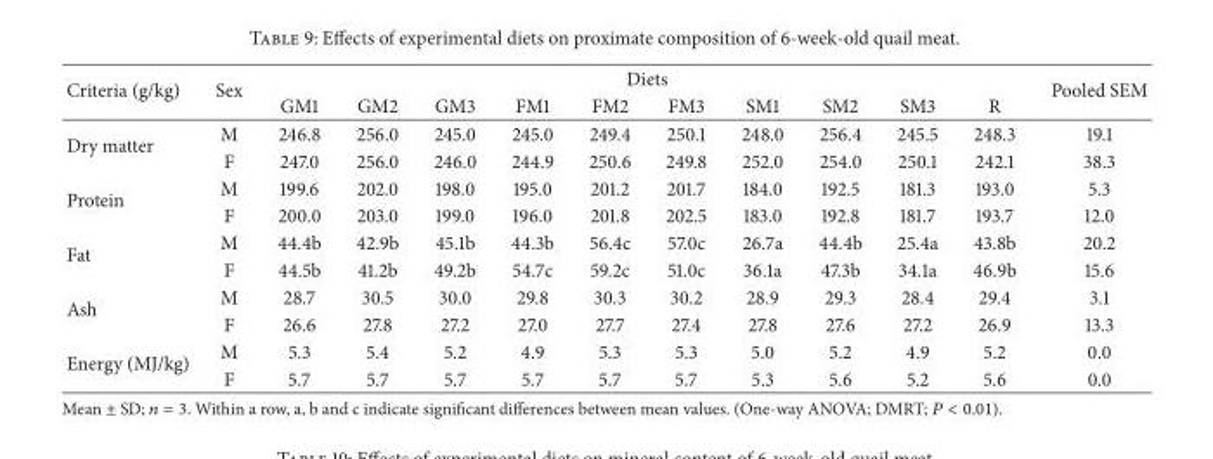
<table><thead><tr><td rowspan="2">Criteria (g/kg)</td><td rowspan="2">Sex</td><td colspan="10">Diets</td><td rowspan="2">Pooled SEM</td></tr><tr><td>GM1</td><td>GM2</td><td>GM3</td><td>FM1</td><td>FM2</td><td>FM3</td><td>SM1</td><td>SM2</td><td>SM3</td><td>R</td></tr></thead><tbody><tr><td rowspan="2">Dry matter</td><td>M</td><td>246.8</td><td>256.0</td><td>245.0</td><td>245.0</td><td>249.4</td><td>250.1</td><td>248.0</td><td>256.4</td><td>245.5</td><td>248.3</td><td>19.1</td></tr><tr><td>F</td><td>247.0</td><td>256.0</td><td>246.0</td><td>244.9</td><td>250.6</td><td>249.8</td><td>252.0</td><td>254.0</td><td>250.1</td><td>242.1</td><td>38.3</td></tr><tr><td rowspan="2">Protein</td><td>M</td><td>199.6</td><td>202.0</td><td>198.0</td><td>195.0</td><td>201.2</td><td>201.7</td><td>184.0</td><td>192.5</td><td>181.3</td><td>193.0</td><td>5.3</td></tr><tr><td>F</td><td>200.0</td><td>203.0</td><td>199.0</td><td>196.0</td><td>201.8</td><td>202.5</td><td>183.0</td><td>192.8</td><td>181.7</td><td>193.7</td><td>12.0</td></tr><tr><td rowspan="2">Fat</td><td>M</td><td>44.4b</td><td>42.9b</td><td>45.1b</td><td>44.3b</td><td>56.4c</td><td>57.0c</td><td>26.7a</td><td>44.4b</td><td>25.4a</td><td>43.8b</td><td>20.2</td></tr><tr><td>F</td><td>44.5b</td><td>41.2b</td><td>49.2b</td><td>54.7c</td><td>59.2c</td><td>51.0c</td><td>36.1a</td><td>47.3b</td><td>34.1a</td><td>46.9b</td><td>15.6</td></tr><tr><td rowspan="2">Ash</td><td>M</td><td>28.7</td><td>30.5</td><td>30.0</td><td>29.8</td><td>30.3</td><td>30.2</td><td>28.9</td><td>29.3</td><td>28.4</td><td>29.4</td><td>3.1</td></tr><tr><td>F</td><td>26.6</td><td>27.8</td><td>27.2</td><td>27.0</td><td>27.7</td><td>27.4</td><td>27.8</td><td>27.6</td><td>27.2</td><td>26.9</td><td>13.3</td></tr><tr><td rowspan="2">Energy (MJ/kg)</td><td>M</td><td>5.3</td><td>5.4</td><td>5.2</td><td>4.9</td><td>5.3</td><td>5.3</td><td>5.0</td><td>5.2</td><td>4.9</td><td>5.2</td><td>0.0</td></tr><tr><td>F</td><td>5.7</td><td>5.7</td><td>5.7</td><td>5.7</td><td>5.7</td><td>5.7</td><td>5.3</td><td>5.6</td><td>5.2</td><td>5.6</td><td>0.0</td></tr></tbody></table>